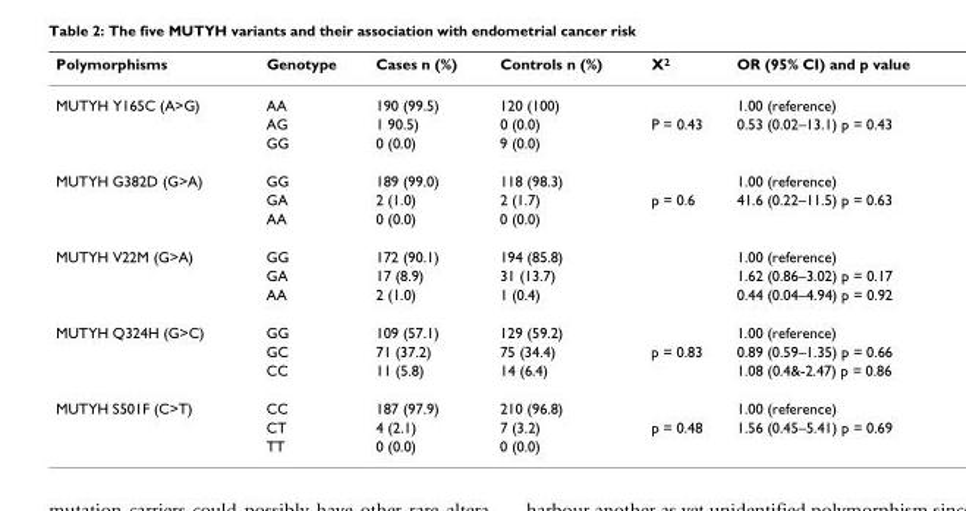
<table><thead><tr><td>Polymorphisms</td><td>Genotype</td><td>Cases n (%)</td><td>Controls n (%)</td><td>X<sup>2</sup></td><td>OR (95% CI) and p value</td></tr></thead><tbody><tr><td rowspan="3">MUTYH Y165C (A&gt;G)</td><td>AA</td><td>190 (99.5)</td><td>120 (100)</td><td></td><td>1.00 (reference)</td></tr><tr><td>AG</td><td>1 90.5)</td><td>0 (0.0)</td><td>P = 0.43</td><td>0.53 (0.02–13.1) p = 0.43</td></tr><tr><td>GG</td><td>0 (0.0)</td><td>9 (0.0)</td><td></td><td></td></tr><tr><td rowspan="3">MUTYH G382D (G&gt;A)</td><td>GG</td><td>189 (99.0)</td><td>118 (98.3)</td><td></td><td>1.00 (reference)</td></tr><tr><td>GA</td><td>2 (1.0)</td><td>2 (1.7)</td><td>p = 0.6</td><td>41.6 (0.22–11.5) p = 0.63</td></tr><tr><td>AA</td><td>0 (0.0)</td><td>0 (0.0)</td><td></td><td></td></tr><tr><td rowspan="3">MUTYH V22M (G&gt;A)</td><td>GG</td><td>172 (90.1)</td><td>194 (85.8)</td><td></td><td>1.00 (reference)</td></tr><tr><td>GA</td><td>17 (8.9)</td><td>31 (13.7)</td><td></td><td>1.62 (0.86–3.02) p = 0.17</td></tr><tr><td>AA</td><td>2 (1.0)</td><td>1 (0.4)</td><td></td><td>0.44 (0.04–4.94) p = 0.92</td></tr><tr><td rowspan="3">MUTYH Q324H (G&gt;C)</td><td>GG</td><td>109 (57.1)</td><td>129 (59.2)</td><td></td><td>1.00 (reference)</td></tr><tr><td>GC</td><td>71 (37.2)</td><td>75 (34.4)</td><td>p = 0.83</td><td>0.89 (0.59–1.35) p = 0.66</td></tr><tr><td>CC</td><td>11 (5.8)</td><td>14 (6.4)</td><td></td><td>1.08 (0.4&amp;-2.47) p = 0.86</td></tr><tr><td rowspan="3">MUTYH S501F (C&gt;T)</td><td>CC</td><td>187 (97.9)</td><td>210 (96.8)</td><td></td><td>1.00 (reference)</td></tr><tr><td>CT</td><td>4 (2.1)</td><td>7 (3.2)</td><td>p = 0.48</td><td>1.56 (0.45–5.41) p = 0.69</td></tr><tr><td>TT</td><td>0 (0.0)</td><td>0 (0.0)</td><td></td><td></td></tr></tbody></table>